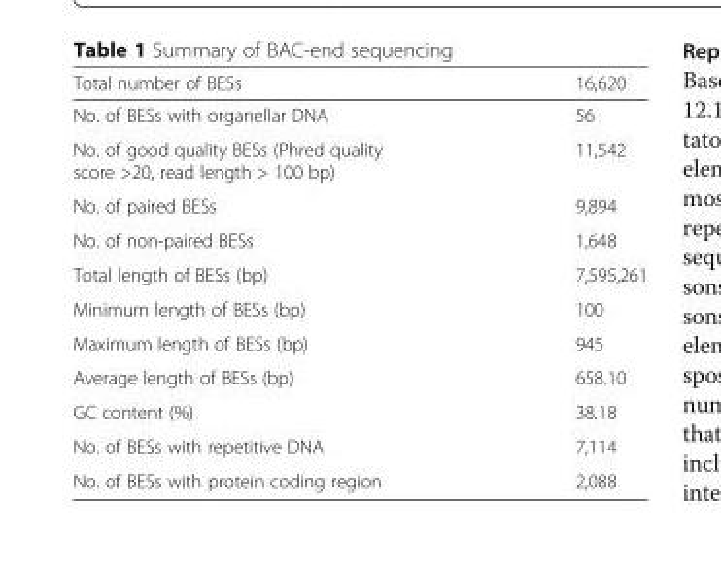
<table><thead><tr><td>Total number of BESs</td><td>16,620</td></tr></thead><tbody><tr><td>No. of BESs with organellar DNA</td><td>56</td></tr><tr><td>No. of good quality BESs (Phred quality score &gt;20, read length &gt; 100 bp)</td><td>11,542</td></tr><tr><td>No. of paired BESs</td><td>9,894</td></tr><tr><td>No. of non-paired BESs</td><td>1,648</td></tr><tr><td>Total length of BESs (bp)</td><td>7,595,261</td></tr><tr><td>Minimum length of BESs (bp)</td><td>100</td></tr><tr><td>Maximum length of BESs (bp)</td><td>945</td></tr><tr><td>Average length of BESs (bp)</td><td>658.10</td></tr><tr><td>GC content (%)</td><td>38.18</td></tr><tr><td>No. of BESs with repetitive DNA</td><td>7,114</td></tr><tr><td>No. of BESs with protein coding region</td><td>2,088</td></tr></tbody></table>